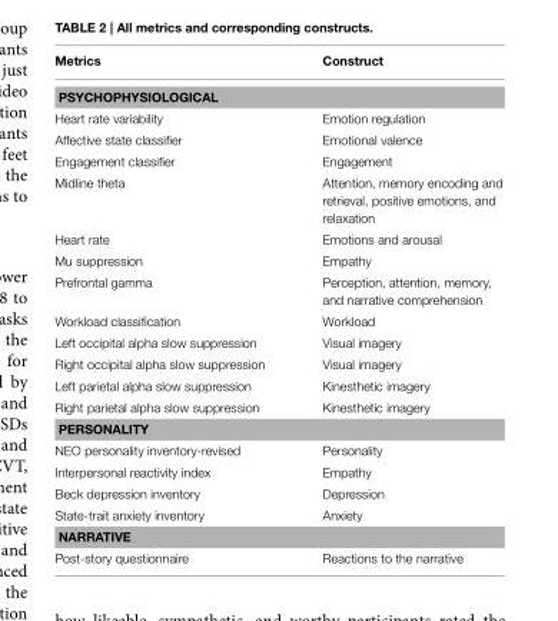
<table><thead><tr><td>Metrics</td><td>Construct</td></tr></thead><tbody><tr><td colspan="2">PSYCHOPHYSIOLOGICAL</td></tr><tr><td>Heart rate variability</td><td>Emotion regulation</td></tr><tr><td>Affective state classifier</td><td>Emotional valence</td></tr><tr><td>Engagement classifier</td><td>Engagement</td></tr><tr><td>Midline theta</td><td>Attention, memory encoding and retrieval, positive emotions, and relaxation</td></tr><tr><td>Heart rate</td><td>Emotions and arousal</td></tr><tr><td>Mu suppression</td><td>Empathy</td></tr><tr><td>Prefrontal gamma</td><td>Perception, attention, memory, and narrative comprehension</td></tr><tr><td>Workload classification</td><td>Workload</td></tr><tr><td>Left occipital alpha slow suppression</td><td>Visual imagery</td></tr><tr><td>Right occipital alpha slow suppression</td><td>Visual imagery</td></tr><tr><td>Left parietal alpha slow suppression</td><td>Kinesthetic imagery</td></tr><tr><td>Right parietal alpha slow suppression</td><td>Kinesthetic imagery</td></tr><tr><td colspan="2">PERSONALITY</td></tr><tr><td>NEO personality inventory-revised</td><td>Personality</td></tr><tr><td>Interpersonal reactivity index</td><td>Empathy</td></tr><tr><td>Beck depression inventory</td><td>Depression</td></tr><tr><td>State-trait anxiety inventory</td><td>Anxiety</td></tr><tr><td colspan="2">NARRATIVE</td></tr><tr><td>Post-story questionnaire</td><td>Reactions to the narrative</td></tr></tbody></table>